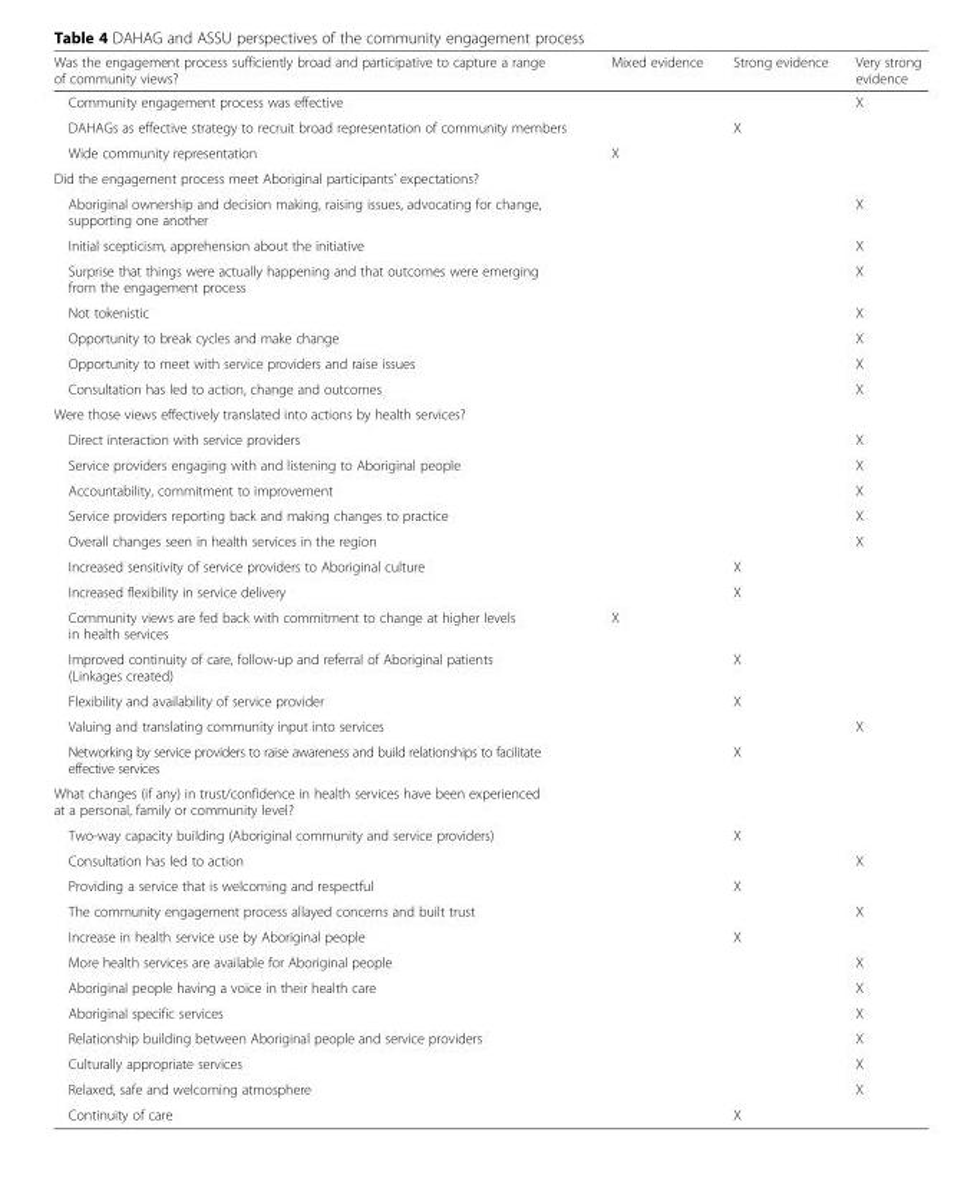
<table><thead><tr><td>Was the engagement process sufficiently broad and participative to capture a range of community views?</td><td>Mixed evidence</td><td>Strong evidence</td><td>Very strong evidence</td></tr></thead><tbody><tr><td>Community engagement process was effective</td><td></td><td></td><td>X</td></tr><tr><td>DAHAGs as effective strategy to recruit broad representation of community members</td><td></td><td>X</td><td></td></tr><tr><td>Wide community representation</td><td>X</td><td></td><td></td></tr><tr><td colspan="4">Did the engagement process meet Aboriginal participants’ expectations?</td></tr><tr><td>Aboriginal ownership and decision making, raising issues, advocating for change, supporting one another</td><td></td><td></td><td>X</td></tr><tr><td>Initial scepticism, apprehension about the initiative</td><td></td><td></td><td>X</td></tr><tr><td>Surprise that things were actually happening and that outcomes were emerging from the engagement process</td><td></td><td></td><td>X</td></tr><tr><td>Not tokenistic</td><td></td><td></td><td>X</td></tr><tr><td>Opportunity to break cycles and make change</td><td></td><td></td><td>X</td></tr><tr><td>Opportunity to meet with service providers and raise issues</td><td></td><td></td><td>X</td></tr><tr><td>Consultation has led to action, change and outcomes</td><td></td><td></td><td>X</td></tr><tr><td colspan="4">Were those views effectively translated into actions by health services?</td></tr><tr><td>Direct interaction with service providers</td><td></td><td></td><td>X</td></tr><tr><td>Service providers engaging with and listening to Aboriginal people</td><td></td><td></td><td>X</td></tr><tr><td>Accountability, commitment to improvement</td><td></td><td></td><td>X</td></tr><tr><td>Service providers reporting back and making changes to practice</td><td></td><td></td><td>X</td></tr><tr><td>Overall changes seen in health services in the region</td><td></td><td></td><td>X</td></tr><tr><td>Increased sensitivity of service providers to Aboriginal culture</td><td></td><td>X</td><td></td></tr><tr><td>Increased flexibility in service delivery</td><td></td><td>X</td><td></td></tr><tr><td>Community views are fed back with commitment to change at higher levels in health services</td><td>X</td><td></td><td></td></tr><tr><td>Improved continuity of care, follow-up and referral of Aboriginal patients (Linkages created)</td><td></td><td>X</td><td></td></tr><tr><td>Flexibility and availability of service provider</td><td></td><td>X</td><td></td></tr><tr><td>Valuing and translating community input into services</td><td></td><td></td><td>X</td></tr><tr><td>Networking by service providers to raise awareness and build relationships to facilitate effective services</td><td></td><td>X</td><td></td></tr><tr><td colspan="4">What changes (if any) in trust/confidence in health services have been experienced at a personal, family or community level?</td></tr><tr><td>Two-way capacity building (Aboriginal community and service providers)</td><td></td><td>X</td><td></td></tr><tr><td>Consultation has led to action</td><td></td><td></td><td>X</td></tr><tr><td>Providing a service that is welcoming and respectful</td><td></td><td>X</td><td></td></tr><tr><td>The community engagement process allayed concerns and built trust</td><td></td><td></td><td>X</td></tr><tr><td>Increase in health service use by Aboriginal people</td><td></td><td>X</td><td></td></tr><tr><td>More health services are available for Aboriginal people</td><td></td><td></td><td>X</td></tr><tr><td>Aboriginal people having a voice in their health care</td><td></td><td></td><td>X</td></tr><tr><td>Aboriginal specific services</td><td></td><td></td><td>X</td></tr><tr><td>Relationship building between Aboriginal people and service providers</td><td></td><td></td><td>X</td></tr><tr><td>Culturally appropriate services</td><td></td><td></td><td>X</td></tr><tr><td>Relaxed, safe and welcoming atmosphere</td><td></td><td></td><td>X</td></tr><tr><td>Continuity of care</td><td></td><td>X</td><td></td></tr></tbody></table>